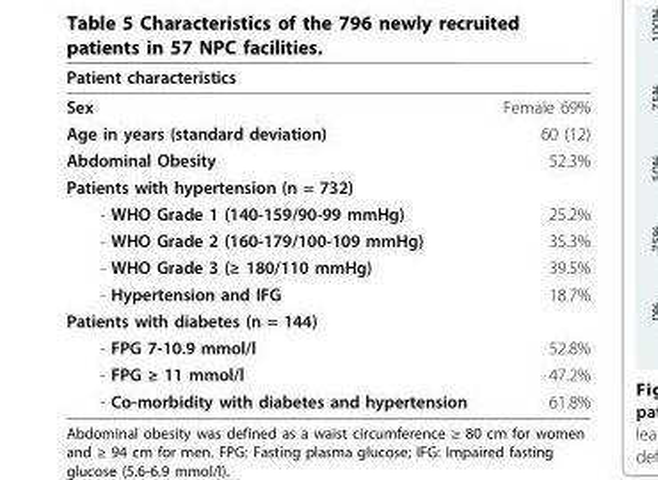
<table><thead><tr><td>Patient characteristics</td><td></td></tr></thead><tbody><tr><td>Sex</td><td>Female 69%</td></tr><tr><td>Age in years (standard deviation)</td><td>60 (12)</td></tr><tr><td>Abdominal Obesity</td><td>52.3%</td></tr><tr><td colspan="2">Patients with hypertension (n = 732)</td></tr><tr><td>- WHO Grade 1 (140-159/90-99 mmHg)</td><td>25.2%</td></tr><tr><td>- WHO Grade 2 (160-179/100-109 mmHg)</td><td>35.3%</td></tr><tr><td>- WHO Grade 3 (≥ 180/110 mmHg)</td><td>39.5%</td></tr><tr><td>- Hypertension and IFG</td><td>18.7%</td></tr><tr><td colspan="2">Patients with diabetes (n = 144)</td></tr><tr><td>- FPG 7-10.9 mmol/l</td><td>52.8%</td></tr><tr><td>- FPG ≥ 11 mmol/l</td><td>47.2%</td></tr><tr><td>- Co-morbidity with diabetes and hypertension</td><td>61.8%</td></tr></tbody></table>